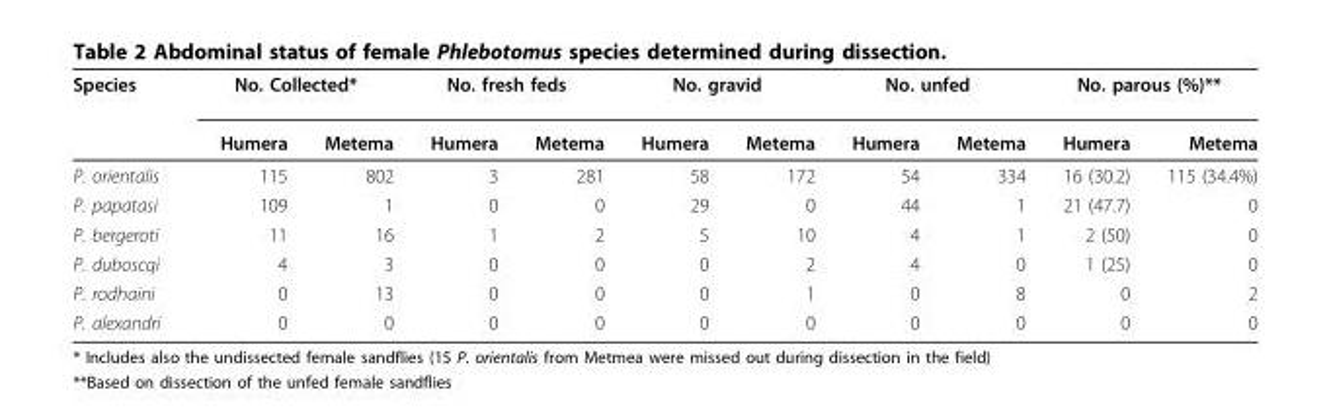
<table><thead><tr><td rowspan="2">Species</td><td colspan="2">No. Collected*</td><td colspan="2">No. fresh feds</td><td colspan="2">No. gravid</td><td colspan="2">No. unfed</td><td colspan="2">No. parous (%)**</td></tr><tr><td>Humera</td><td>Metema</td><td>Humera</td><td>Metema</td><td>Humera</td><td>Metema</td><td>Humera</td><td>Metema</td><td>Humera</td><td>Metema</td></tr></thead><tbody><tr><td>P. orientalis</td><td>115</td><td>802</td><td>3</td><td>281</td><td>58</td><td>172</td><td>54</td><td>334</td><td>16 (30.2)</td><td>115 (34.4%)</td></tr><tr><td>P. papatasi</td><td>109</td><td>1</td><td>0</td><td>0</td><td>29</td><td>0</td><td>44</td><td>1</td><td>21 (47.7)</td><td>0</td></tr><tr><td>P. bergeroti</td><td>11</td><td>16</td><td>1</td><td>2</td><td>5</td><td>10</td><td>4</td><td>1</td><td>2 (50)</td><td>0</td></tr><tr><td>P. duboscqi</td><td>4</td><td>3</td><td>0</td><td>0</td><td>0</td><td>2</td><td>4</td><td>0</td><td>1 (25)</td><td>0</td></tr><tr><td>P. rodhaini</td><td>0</td><td>13</td><td>0</td><td>0</td><td>0</td><td>1</td><td>0</td><td>8</td><td>0</td><td>2</td></tr><tr><td>P. alexandri</td><td>0</td><td>0</td><td>0</td><td>0</td><td>0</td><td>0</td><td>0</td><td>0</td><td>0</td><td>0</td></tr></tbody></table>